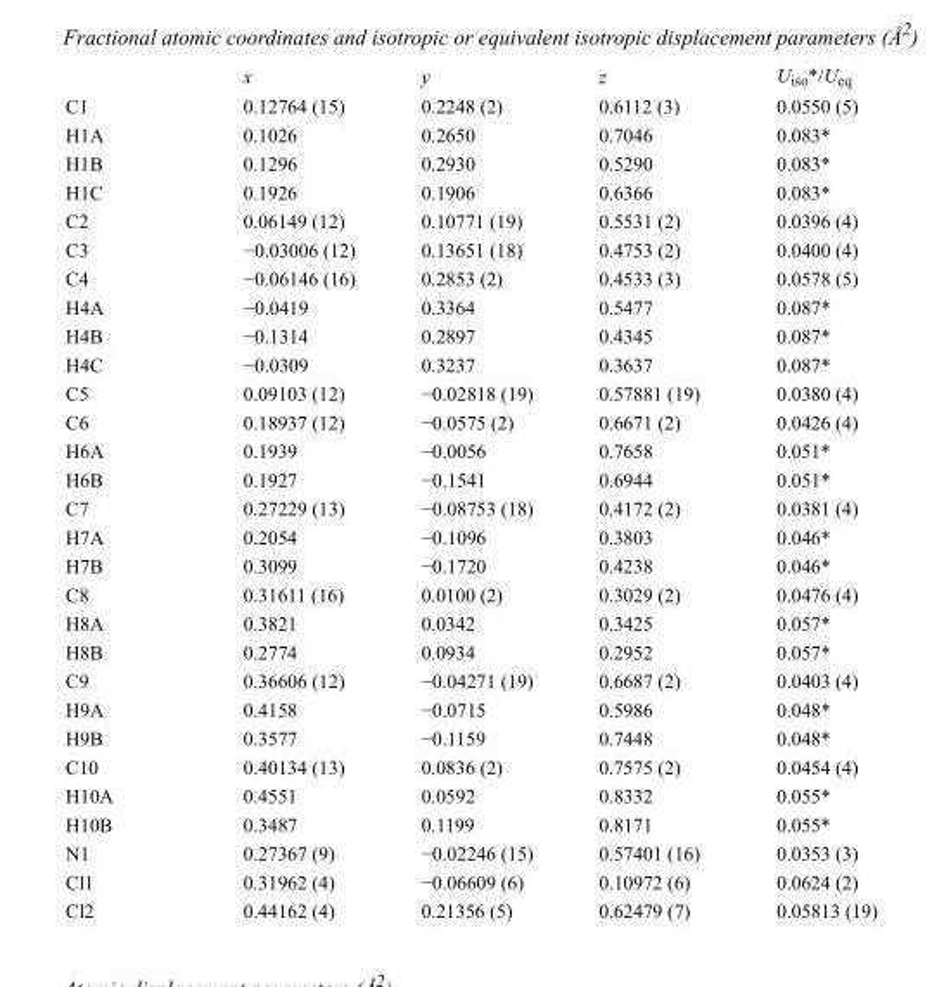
<table><thead><tr><td></td><td>x</td><td>y</td><td>z</td><td>U<sub>iso</sub>*/U<sub>eq</sub></td></tr></thead><tbody><tr><td>C1</td><td>0.12764 (15)</td><td>0.2248 (2)</td><td>0.6112 (3)</td><td>0.0550 (5)</td></tr><tr><td>H1A</td><td>0.1026</td><td>0.2650</td><td>0.7046</td><td>0.083*</td></tr><tr><td>H1B</td><td>0.1296</td><td>0.2930</td><td>0.5290</td><td>0.083*</td></tr><tr><td>H1C</td><td>0.1926</td><td>0.1906</td><td>0.6366</td><td>0.083*</td></tr><tr><td>C2</td><td>0.06149 (12)</td><td>0.10771 (19)</td><td>0.5531 (2)</td><td>0.0396 (4)</td></tr><tr><td>C3</td><td>−0.03006 (12)</td><td>0.13651 (18)</td><td>0.4753 (2)</td><td>0.0400 (4)</td></tr><tr><td>C4</td><td>−0.06146 (16)</td><td>0.2853 (2)</td><td>0.4533 (3)</td><td>0.0578 (5)</td></tr><tr><td>H4A</td><td>−0.0419</td><td>0.3364</td><td>0.5477</td><td>0.087*</td></tr><tr><td>H4B</td><td>−0.1314</td><td>0.2897</td><td>0.4345</td><td>0.087*</td></tr><tr><td>H4C</td><td>−0.0309</td><td>0.3237</td><td>0.3637</td><td>0.087*</td></tr><tr><td>C5</td><td>0.09103 (12)</td><td>−0.02818 (19)</td><td>0.57881 (19)</td><td>0.0380 (4)</td></tr><tr><td>C6</td><td>0.18937 (12)</td><td>−0.0575 (2)</td><td>0.6671 (2)</td><td>0.0426 (4)</td></tr><tr><td>H6A</td><td>0.1939</td><td>−0.0056</td><td>0.7658</td><td>0.051*</td></tr><tr><td>H6B</td><td>0.1927</td><td>−0.1541</td><td>0.6944</td><td>0.051*</td></tr><tr><td>C7</td><td>0.27229 (13)</td><td>−0.08753 (18)</td><td>0.4172 (2)</td><td>0.0381 (4)</td></tr><tr><td>H7A</td><td>0.2054</td><td>−0.1096</td><td>0.3803</td><td>0.046*</td></tr><tr><td>H7B</td><td>0.3099</td><td>−0.1720</td><td>0.4238</td><td>0.046*</td></tr><tr><td>C8</td><td>0.31611 (16)</td><td>0.0100 (2)</td><td>0.3029 (2)</td><td>0.0476 (4)</td></tr><tr><td>H8A</td><td>0.3821</td><td>0.0342</td><td>0.3425</td><td>0.057*</td></tr><tr><td>H8B</td><td>0.2774</td><td>0.0934</td><td>0.2952</td><td>0.057*</td></tr><tr><td>C9</td><td>0.36606 (12)</td><td>−0.04271 (19)</td><td>0.6687 (2)</td><td>0.0403 (4)</td></tr><tr><td>H9A</td><td>0.4158</td><td>−0.0715</td><td>0.5986</td><td>0.048*</td></tr><tr><td>H9B</td><td>0.3577</td><td>−0.1159</td><td>0.7448</td><td>0.048*</td></tr><tr><td>C10</td><td>0.40134 (13)</td><td>0.0836 (2)</td><td>0.7575 (2)</td><td>0.0454 (4)</td></tr><tr><td>H10A</td><td>0.4551</td><td>0.0592</td><td>0.8332</td><td>0.055*</td></tr><tr><td>H10B</td><td>0.3487</td><td>0.1199</td><td>0.8171</td><td>0.055*</td></tr><tr><td>N1</td><td>0.27367 (9)</td><td>−0.02246 (15)</td><td>0.57401 (16)</td><td>0.0353 (3)</td></tr><tr><td>Cl1</td><td>0.31962 (4)</td><td>−0.06609 (6)</td><td>0.10972 (6)</td><td>0.0624 (2)</td></tr><tr><td>Cl2</td><td>0.44162 (4)</td><td>0.21356 (5)</td><td>0.62479 (7)</td><td>0.05813 (19)</td></tr></tbody></table>